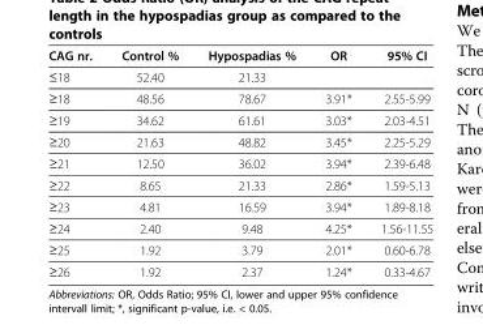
<table><thead><tr><td>CAG nr.</td><td>Control %</td><td>Hypospadias %</td><td>OR</td><td>95% CI</td></tr></thead><tbody><tr><td>≤18</td><td>52.40</td><td>21.33</td><td></td><td></td></tr><tr><td>≥18</td><td>48.56</td><td>78.67</td><td>3.91*</td><td>2.55-5.99</td></tr><tr><td>≥19</td><td>34.62</td><td>61.61</td><td>3.03*</td><td>2.03-4.51</td></tr><tr><td>≥20</td><td>21.63</td><td>48.82</td><td>3.45*</td><td>2.25-5.29</td></tr><tr><td>≥21</td><td>12.50</td><td>36.02</td><td>3.94*</td><td>2.39-6.48</td></tr><tr><td>≥22</td><td>8.65</td><td>21.33</td><td>2.86*</td><td>1.59-5.13</td></tr><tr><td>≥23</td><td>4.81</td><td>16.59</td><td>3.94*</td><td>1.89-8.18</td></tr><tr><td>≥24</td><td>2.40</td><td>9.48</td><td>4.25*</td><td>1.56-11.55</td></tr><tr><td>≥25</td><td>1.92</td><td>3.79</td><td>2.01*</td><td>0.60-6.78</td></tr><tr><td>≥26</td><td>1.92</td><td>2.37</td><td>1.24*</td><td>0.33-4.67</td></tr></tbody></table>